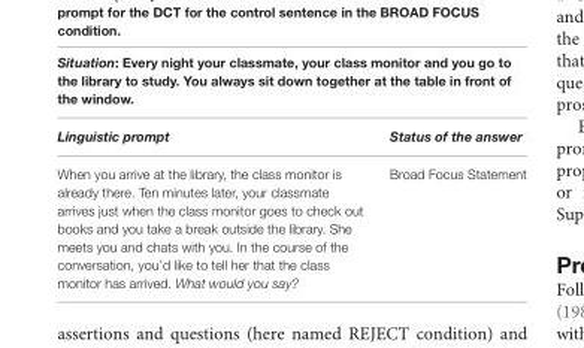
<table><thead><tr><td colspan="2">Situation: Every night your classmate, your class monitor and you go to the library to study. You always sit down together at the table in front of the window.</td></tr><tr><td>Linguistic prompt</td><td>Status of the answer</td></tr></thead><tbody><tr><td>When you arrive at the library, the class monitor is already there. Ten minutes later, your classmate arrives just when the class monitor goes to check out books and you take a break outside the library. She meets you and chats with you. In the course of the conversation, you’d like to tell her that the class monitor has arrived. What would you say?</td><td>Broad Focus Statement</td></tr></tbody></table>